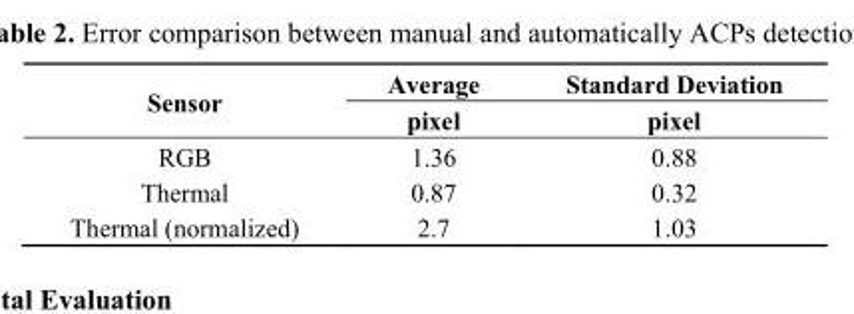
<table><thead><tr><td rowspan="2">Sensor</td><td rowspan="2">Average pixel</td><td rowspan="2">Standard Deviation pixel</td></tr><tr></tr></thead><tbody><tr><td>RGB</td><td>1.36</td><td>0.88</td></tr><tr><td>Thermal</td><td>0.87</td><td>0.32</td></tr><tr><td>Thermal (normalized)</td><td>2.7</td><td>1.03</td></tr></tbody></table>